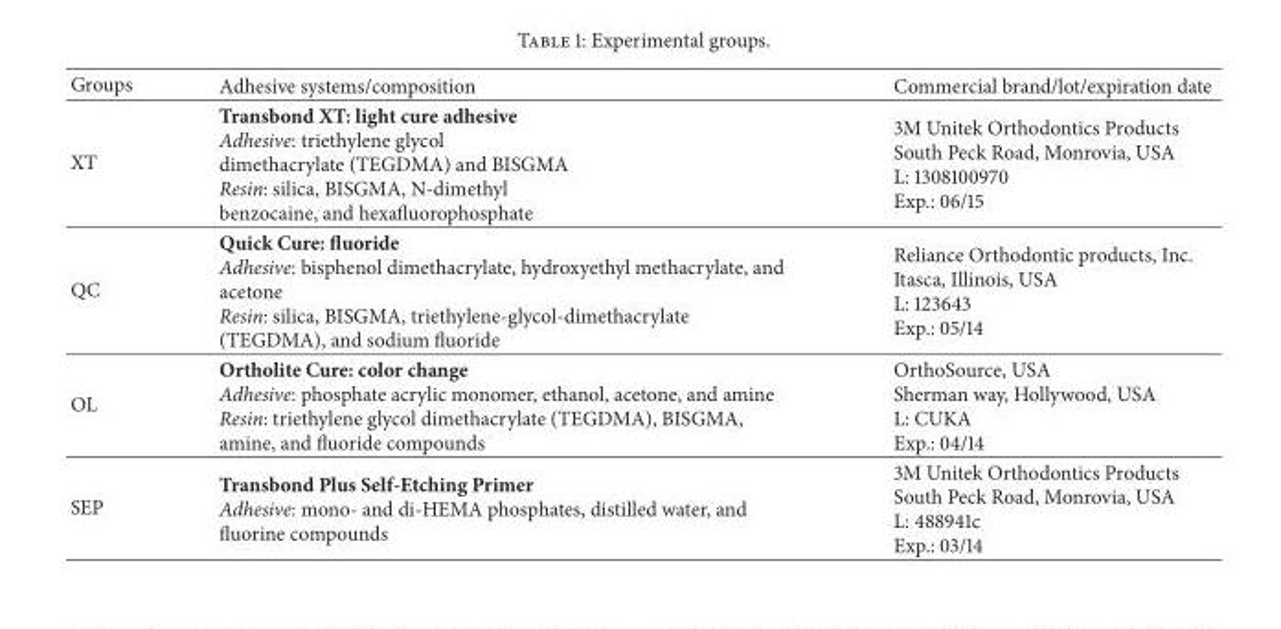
<table><thead><tr><td>Groups</td><td>Adhesive systems/composition</td><td>Commercial brand/lot/expiration date</td></tr></thead><tbody><tr><td>XT</td><td>Transbond XT: light cure adhesive Adhesive: triethylene glycol dimethacrylate (TEGDMA) and BISGMA Resin: silica, BISGMA, N-dimethyl benzocaine, and hexafluorophosphate</td><td>3M Unitek Orthodontics Products South Peck Road, Monrovia, USA L: 1308100970 Exp.: 06/15</td></tr><tr><td>QC</td><td>Quick Cure: fluoride Adhesive: bisphenol dimethacrylate, hydroxyethyl methacrylate, and acetone Resin: silica, BISGMA, triethylene-glycol-dimethacrylate (TEGDMA), and sodium fluoride</td><td>Reliance Orthodontic products, Inc. Itasca, Illinois, USA L: 123643 Exp.: 05/14</td></tr><tr><td>OL</td><td>Ortholite Cure: color change Adhesive: phosphate acrylic monomer, ethanol, acetone, and amine Resin: triethylene glycol dimethacrylate (TEGDMA), BISGMA, amine, and fluoride compounds</td><td>OrthoSource, USA Sherman way, Hollywood, USA L: CUKA Exp.: 04/14</td></tr><tr><td>SEP</td><td>Transbond Plus Self-Etching Primer Adhesive: mono- and di-HEMA phosphates, distilled water, and fluorine compounds</td><td>3M Unitek Orthodontics Products South Peck Road, Monrovia, USA L: 488941c Exp.: 03/14</td></tr></tbody></table>